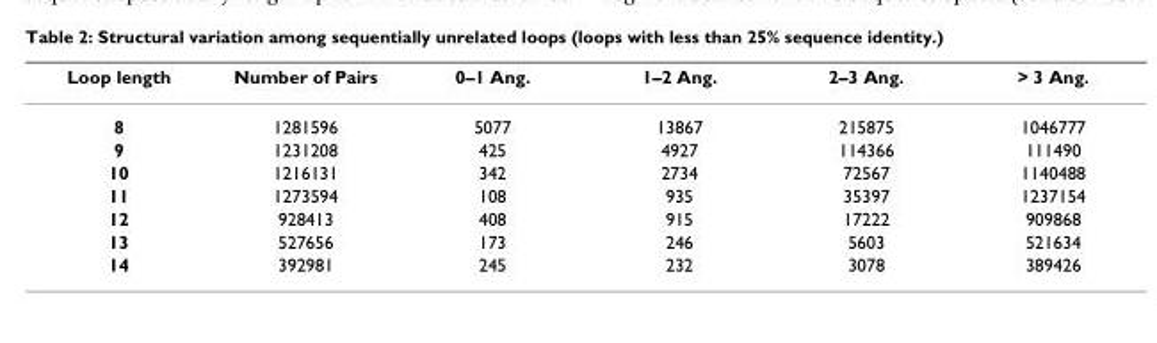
<table><thead><tr><td>Loop length</td><td>Number of Pairs</td><td>0–1 Ang.</td><td>1–2 Ang.</td><td>2–3 Ang.</td><td>&gt; 3 Ang.</td></tr></thead><tbody><tr><td>8</td><td>1281596</td><td>5077</td><td>13867</td><td>215875</td><td>1046777</td></tr><tr><td>9</td><td>1231208</td><td>425</td><td>4927</td><td>114366</td><td>111490</td></tr><tr><td>10</td><td>1216131</td><td>342</td><td>2734</td><td>72567</td><td>1140488</td></tr><tr><td>11</td><td>1273594</td><td>108</td><td>935</td><td>35397</td><td>1237154</td></tr><tr><td>12</td><td>928413</td><td>408</td><td>915</td><td>17222</td><td>909868</td></tr><tr><td>13</td><td>527656</td><td>173</td><td>246</td><td>5603</td><td>521634</td></tr><tr><td>14</td><td>392981</td><td>245</td><td>232</td><td>3078</td><td>389426</td></tr></tbody></table>